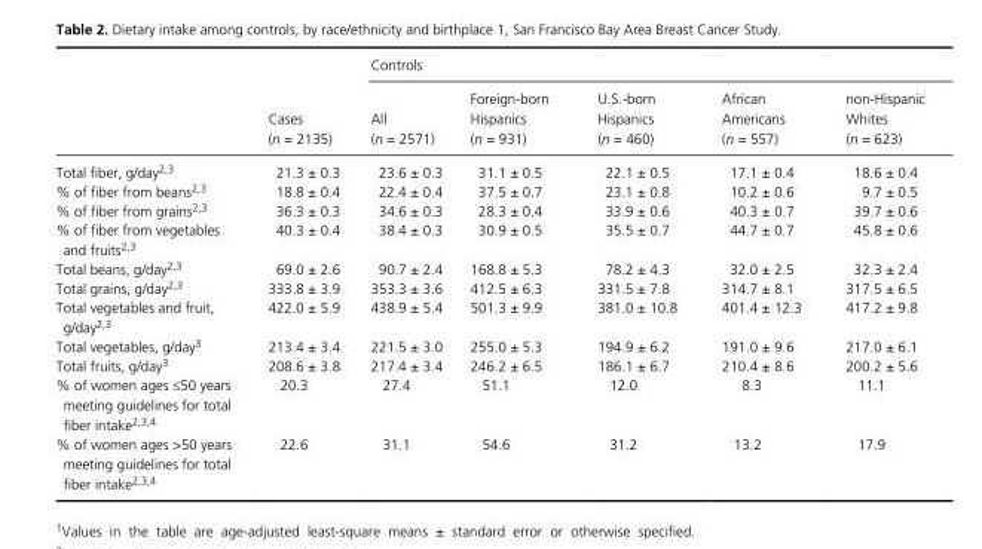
<table><thead><tr><td rowspan="2"></td><td rowspan="2">Cases (n = 2135)</td><td colspan="5">Controls</td></tr><tr><td>All (n = 2571)</td><td>Foreign- born Hispanics (n = 931)</td><td>U.S.- born Hispanics (n = 460)</td><td>African Americans (n = 557)</td><td>non- Hispanic Whites (n = 623)</td></tr></thead><tbody><tr><td>Total fiber, g/day2,3</td><td>21.3 ± 0.3</td><td>23.6 ± 0.3</td><td>31.1 ± 0.5</td><td>22.1 ± 0.5</td><td>17.1 ± 0.4</td><td>18.6 ± 0.4</td></tr><tr><td>% of fiber from beans2,3</td><td>18.8 ± 0.4</td><td>22.4 ± 0.4</td><td>37.5 ± 0.7</td><td>23.1 ± 0.8</td><td>10.2 ± 0.6</td><td>9.7 ± 0.5</td></tr><tr><td>% of fiber from grains2,3</td><td>36.3 ± 0.3</td><td>34.6 ± 0.3</td><td>28.3 ± 0.4</td><td>33.9 ± 0.6</td><td>40.3 ± 0.7</td><td>39.7 ± 0.6</td></tr><tr><td>% of fiber from vegetables and fruits2,3</td><td>40.3 ± 0.4</td><td>38.4 ± 0.3</td><td>30.9 ± 0.5</td><td>35.5 ± 0.7</td><td>44.7 ± 0.7</td><td>45.8 ± 0.6</td></tr><tr><td>Total beans, g/day2,3</td><td>69.0 ± 2.6</td><td>90.7 ± 2.4</td><td>168.8 ± 5.3</td><td>78.2 ± 4.3</td><td>32.0 ± 2.5</td><td>32.3 ± 2.4</td></tr><tr><td>Total grains, g/day2,3</td><td>333.8 ± 3.9</td><td>353.3 ± 3.6</td><td>412.5 ± 6.3</td><td>331.5 ± 7.8</td><td>314.7 ± 8.1</td><td>317.5 ± 6.5</td></tr><tr><td>Total vegetables and fruit, g/day2,3</td><td>422.0 ± 5.9</td><td>438.9 ± 5.4</td><td>501.3 ± 9.9</td><td>381.0 ± 10.8</td><td>401.4 ± 12.3</td><td>417.2 ± 9.8</td></tr><tr><td>Total vegetables, g/day3</td><td>213.4 ± 3.4</td><td>221.5 ± 3.0</td><td>255.0 ± 5.3</td><td>194.9 ± 6.2</td><td>191.0 ± 9.6</td><td>217.0 ± 6.1</td></tr><tr><td>Total fruits, g/day3</td><td>208.6 ± 3.8</td><td>217.4 ± 3.4</td><td>246.2 ± 6.5</td><td>186.1 ± 6.7</td><td>210.4 ± 8.6</td><td>200.2 ± 5.6</td></tr><tr><td>% of women ages ≤50 years meeting guidelines for total fiber intake2,3,4</td><td>20.3</td><td>27.4</td><td>51.1</td><td>12.0</td><td>8.3</td><td>11.1</td></tr><tr><td>% of women ages &gt;50 years meeting guidelines for total fiber intake2,3,4</td><td>22.6</td><td>31.1</td><td>54.6</td><td>31.2</td><td>13.2</td><td>17.9</td></tr></tbody></table>